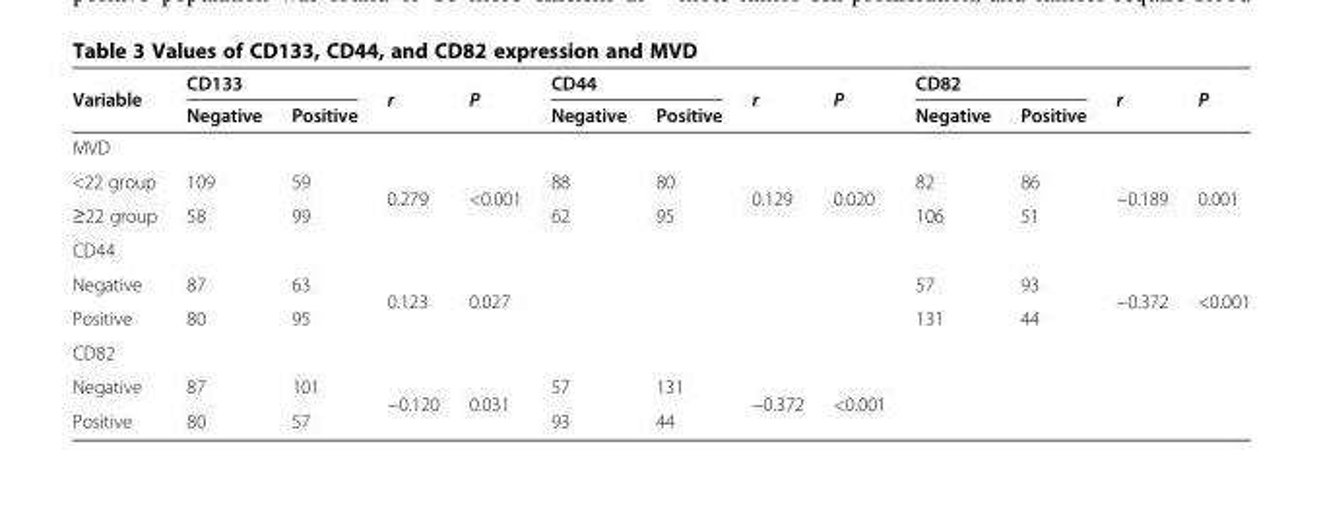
<table><thead><tr><td rowspan="2">Variable</td><td colspan="2">CD133</td><td rowspan="2">r</td><td rowspan="2">P</td><td colspan="2">CD44</td><td rowspan="2">r</td><td rowspan="2">P</td><td colspan="2">CD82</td><td rowspan="2">r</td><td rowspan="2">P</td></tr><tr><td>Negative</td><td>Positive</td><td>Negative</td><td>Positive</td><td>Negative</td><td>Positive</td></tr></thead><tbody><tr><td colspan="13">MVD</td></tr><tr><td>&lt;22 group</td><td>109</td><td>59</td><td rowspan="2">0.279</td><td rowspan="2">&lt;0.001</td><td>88</td><td>80</td><td rowspan="2">0.129</td><td rowspan="2">0.020</td><td>82</td><td>86</td><td rowspan="2">−0.189</td><td rowspan="2">0.001</td></tr><tr><td>≥22 group</td><td>58</td><td>99</td><td>62</td><td>95</td><td>106</td><td>51</td></tr><tr><td colspan="13">CD44</td></tr><tr><td>Negative</td><td>87</td><td>63</td><td rowspan="2">0.123</td><td rowspan="2">0.027</td><td></td><td></td><td></td><td></td><td>57</td><td>93</td><td rowspan="2">−0.372</td><td rowspan="2">&lt;0.001</td></tr><tr><td>Positive</td><td>80</td><td>95</td><td></td><td></td><td></td><td></td><td>131</td><td>44</td></tr><tr><td colspan="13">CD82</td></tr><tr><td>Negative</td><td>87</td><td>101</td><td rowspan="2">−0.120</td><td rowspan="2">0.031</td><td>57</td><td>131</td><td rowspan="2">−0.372</td><td rowspan="2">&lt;0.001</td><td></td><td></td><td></td><td></td></tr><tr><td>Positive</td><td>80</td><td>57</td><td>93</td><td>44</td><td></td><td></td><td></td><td></td></tr></tbody></table>